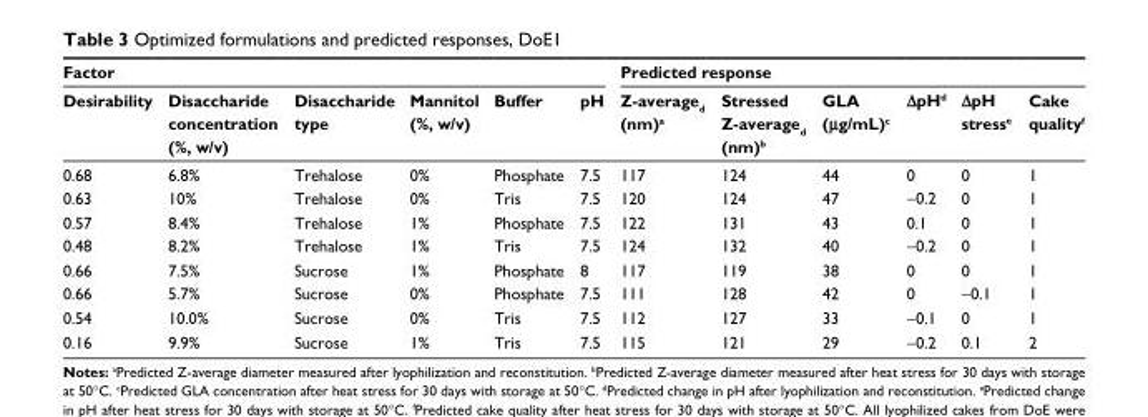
<table><thead><tr><td colspan="6">Factor</td><td colspan="6">Predicted response</td></tr><tr><td>Desirability</td><td>Disaccharide concentration (%, w/v)</td><td>Disaccharide type</td><td>Mannitol (%, w/v)</td><td>Buffer</td><td>pH</td><td>Z-average<sub>d</sub> (nm)<sup>a</sup></td><td>Stressed Z-average<sub>d</sub> (nm)<sup>b</sup></td><td>GLA (μg/mL)<sup>c</sup></td><td>ΔpH<sup>d</sup></td><td>ΔpH stress<sup>e</sup></td><td>Cake quality<sup>f</sup></td></tr></thead><tbody><tr><td>0.68</td><td>6.8%</td><td>Trehalose</td><td>0%</td><td>Phosphate</td><td>7.5</td><td>117</td><td>124</td><td>44</td><td>0</td><td>0</td><td>1</td></tr><tr><td>0.63</td><td>10%</td><td>Trehalose</td><td>0%</td><td>Tris</td><td>7.5</td><td>120</td><td>124</td><td>47</td><td>−0.2</td><td>0</td><td>1</td></tr><tr><td>0.57</td><td>8.4%</td><td>Trehalose</td><td>1%</td><td>Phosphate</td><td>7.5</td><td>122</td><td>131</td><td>43</td><td>0.1</td><td>0</td><td>1</td></tr><tr><td>0.48</td><td>8.2%</td><td>Trehalose</td><td>1%</td><td>Tris</td><td>7.5</td><td>124</td><td>132</td><td>40</td><td>−0.2</td><td>0</td><td>1</td></tr><tr><td>0.66</td><td>7.5%</td><td>sucrose</td><td>1%</td><td>Phosphate</td><td>8</td><td>117</td><td>119</td><td>38</td><td>0</td><td>0</td><td>1</td></tr><tr><td>0.66</td><td>5.7%</td><td>sucrose</td><td>0%</td><td>Phosphate</td><td>7.5</td><td>111</td><td>128</td><td>42</td><td>0</td><td>−0.1</td><td>1</td></tr><tr><td>0.54</td><td>10.0%</td><td>sucrose</td><td>0%</td><td>Tris</td><td>7.5</td><td>112</td><td>127</td><td>33</td><td>−0.1</td><td>0</td><td>1</td></tr><tr><td>0.16</td><td>9.9%</td><td>sucrose</td><td>1%</td><td>Tris</td><td>7.5</td><td>115</td><td>121</td><td>29</td><td>−0.2</td><td>0.1</td><td>2</td></tr></tbody></table>